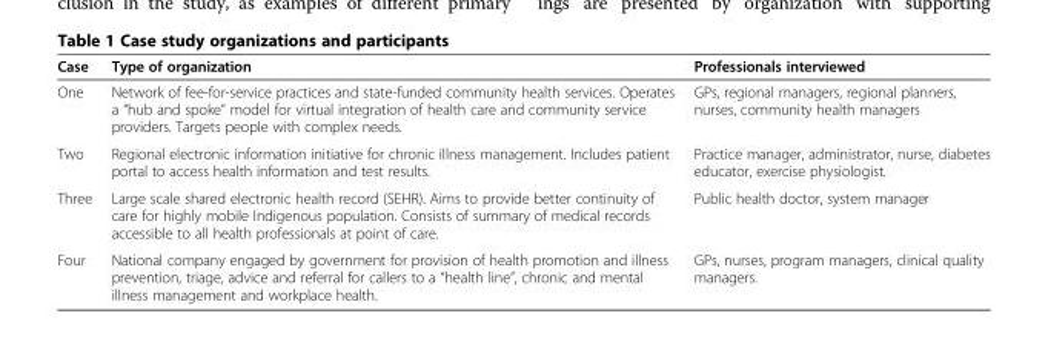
<table><thead><tr><td>Case</td><td>Type of organization</td><td>Professionals interviewed</td></tr></thead><tbody><tr><td>One</td><td>Network of fee-for-service practices and state-funded community health services. Operates a “hub and spoke” model for virtual integration of health care and community service providers. Targets people with complex needs.</td><td>GPs, regional managers, regional planners, nurses, community health managers</td></tr><tr><td>Two</td><td>Regional electronic information initiative for chronic illness management. Includes patient portal to access health information and test results.</td><td>Practice manager, administrator, nurse, diabetes educator, exercise physiologist.</td></tr><tr><td>Three</td><td>Large scale shared electronic health record (SEHR). Aims to provide better continuity of care for highly mobile Indigenous population. Consists of summary of medical records accessible to all health professionals at point of care.</td><td>Public health doctor, system manager</td></tr><tr><td>Four</td><td>National company engaged by government for provision of health promotion and illness prevention, triage, advice and referral for callers to a “health line”, chronic and mental illness management and workplace health.</td><td>GPs, nurses, program managers, clinical quality managers.</td></tr></tbody></table>